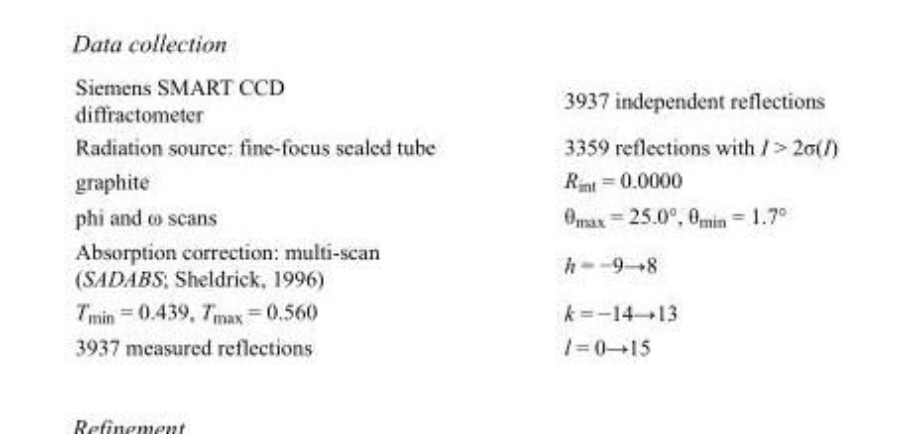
<table><tbody><tr><td>Siemens SMART CCD diffractometer</td><td>3937 independent reflections</td></tr><tr><td>Radiation source: fine-focus sealed tube</td><td>3359 reflections with I &gt; 2σ(I)</td></tr><tr><td>graphite</td><td>R<sub>int</sub> = 0.0000</td></tr><tr><td>phi and ω scans</td><td>θ<sub>max</sub> = 25.0°, θ<sub>min</sub> = 1.7°</td></tr><tr><td>Absorption correction: multi-scan (SADABS; Sheldrick, 1996)</td><td>h = −9→8</td></tr><tr><td>T<sub>min</sub> = 0.439, T<sub>max</sub> = 0.560</td><td>k = −14→13</td></tr><tr><td>3937 measured reflections</td><td>l = 0→15</td></tr></tbody></table>